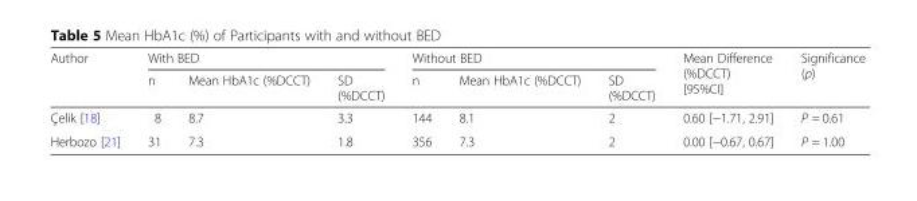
<table><thead><tr><td rowspan="2">Author</td><td colspan="3">With BED</td><td colspan="3">Without BED</td><td rowspan="2">Mean Difference (%DCCT) [95%CI]</td><td rowspan="2">Significance (p)</td></tr><tr><td>n</td><td>Mean HbA1c (%DCCT)</td><td>SD (%DCCT)</td><td>n</td><td>Mean HbA1c (%DCCT)</td><td>SD (%DCCT)</td></tr></thead><tbody><tr><td>Çelik [18]</td><td>8</td><td>8.7</td><td>3.3</td><td>144</td><td>8.1</td><td>2</td><td>0.60 [−1.71, 2.91]</td><td>P = 0.61</td></tr><tr><td>Herbozo [21]</td><td>31</td><td>7.3</td><td>1.8</td><td>356</td><td>7.3</td><td>2</td><td>0.00 [−0.67, 0.67]</td><td>P = 1.00</td></tr></tbody></table>